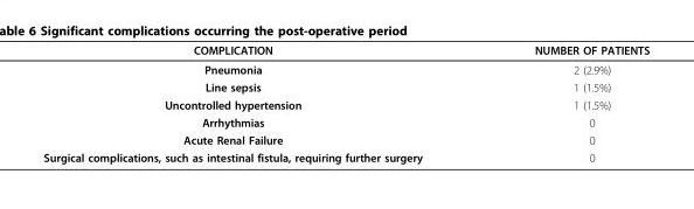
<table><thead><tr><td>COMPLICATION</td><td>NUMBER OF PATIENTS</td></tr></thead><tbody><tr><td>Pneumonia</td><td>2 (2.9%)</td></tr><tr><td>Line sepsis</td><td>1 (1.5%)</td></tr><tr><td>Uncontrolled hypertension</td><td>1 (1.5%)</td></tr><tr><td>Arrhythmias</td><td>0</td></tr><tr><td>Acute Renal Failure</td><td>0</td></tr><tr><td>Surgical complications, such as intestinal fistula, requiring further surgery</td><td>0</td></tr></tbody></table>